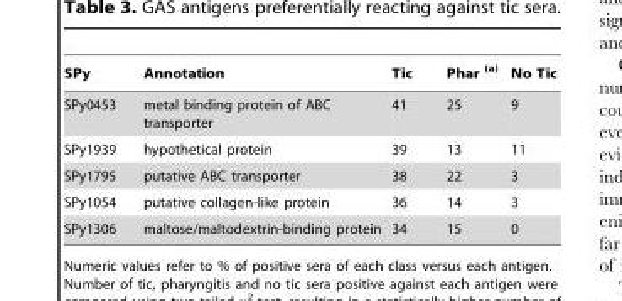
<table><thead><tr><td>SPy</td><td>Annotation</td><td>Tic</td><td>Phar (a)</td><td>No Tic</td></tr></thead><tbody><tr><td>SPy0453</td><td>metal binding protein of ABC transporter</td><td>41</td><td>25</td><td>9</td></tr><tr><td>SPy1939</td><td>hypothetical protein</td><td>39</td><td>13</td><td>11</td></tr><tr><td>SPy1795</td><td>putative ABC transporter</td><td>38</td><td>22</td><td>3</td></tr><tr><td>SPy1054</td><td>putative collagen-like protein</td><td>36</td><td>14</td><td>3</td></tr><tr><td>SPy1306</td><td>maltose/maltodextrin-binding protein</td><td>34</td><td>15</td><td>0</td></tr></tbody></table>